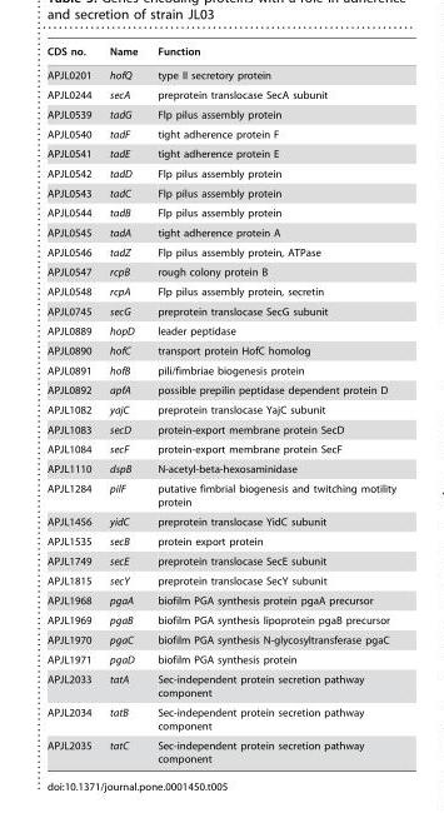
<table><thead><tr><td>CDS no.</td><td>Name</td><td>Function</td></tr></thead><tbody><tr><td>APJL0201</td><td>hofQ</td><td>type II secretory protein</td></tr><tr><td>APJL0244</td><td>secA</td><td>preprotein translocase SecA subunit</td></tr><tr><td>APJL0539</td><td>tadG</td><td>Flp pilus assembly protein</td></tr><tr><td>APJL0540</td><td>tadF</td><td>tight adherence protein F</td></tr><tr><td>APJL0541</td><td>tadE</td><td>tight adherence protein E</td></tr><tr><td>APJL0542</td><td>tadD</td><td>Flp pilus assembly protein</td></tr><tr><td>APJL0543</td><td>tadC</td><td>Flp pilus assembly protein</td></tr><tr><td>APJL0544</td><td>tadB</td><td>Flp pilus assembly protein</td></tr><tr><td>APJL0545</td><td>tadA</td><td>tight adherence protein A</td></tr><tr><td>APJL0546</td><td>tadZ</td><td>Flp pilus assembly protein, ATPase</td></tr><tr><td>APJL0547</td><td>rcpB</td><td>rough colony protein B</td></tr><tr><td>APJL0548</td><td>rcpA</td><td>Flp pilus assembly protein, secretin</td></tr><tr><td>APJL0745</td><td>secG</td><td>preprotein translocase SecG subunit</td></tr><tr><td>APJL0889</td><td>hopD</td><td>leader peptidase</td></tr><tr><td>APJL0890</td><td>hofC</td><td>transport protein HofC homolog</td></tr><tr><td>APJL0891</td><td>hofB</td><td>pili/fimbriae biogenesis protein</td></tr><tr><td>APJL0892</td><td>apfA</td><td>possible prepilin peptidase dependent protein D</td></tr><tr><td>APJL1082</td><td>yajC</td><td>preprotein translocase YajC subunit</td></tr><tr><td>APJL1083</td><td>secD</td><td>protein-export membrane protein SecD</td></tr><tr><td>APJL1084</td><td>secF</td><td>protein-export membrane protein SecF</td></tr><tr><td>APJL1110</td><td>dspB</td><td>N-acetyl-beta-hexosaminidase</td></tr><tr><td>APJL1284</td><td>pilF</td><td>putative fimbrial biogenesis and twitching motility protein</td></tr><tr><td>APJL1456</td><td>yidC</td><td>preprotein translocase YidC subunit</td></tr><tr><td>APJL1535</td><td>secB</td><td>protein export protein</td></tr><tr><td>APJL1749</td><td>secE</td><td>preprotein translocase SecE subunit</td></tr><tr><td>APJL1815</td><td>secY</td><td>preprotein translocase SecY subunit</td></tr><tr><td>APJL1968</td><td>pgaA</td><td>biofilm PGA synthesis protein pgaA precursor</td></tr><tr><td>APJL1969</td><td>pgaB</td><td>biofilm PGA synthesis lipoprotein pgaB precursor</td></tr><tr><td>APJL1970</td><td>pgaC</td><td>biofilm PGA synthesis N-glycosyltransferase pgaC</td></tr><tr><td>APJL1971</td><td>pgaD</td><td>biofilm PGA synthesis protein</td></tr><tr><td>APJL2033</td><td>tatA</td><td>Sec-independent protein secretion pathway component</td></tr><tr><td>APJL2034</td><td>tatB</td><td>Sec-independent protein secretion pathway component</td></tr><tr><td>APJL2035</td><td>tatC</td><td>Sec-independent protein secretion pathway component</td></tr></tbody></table>